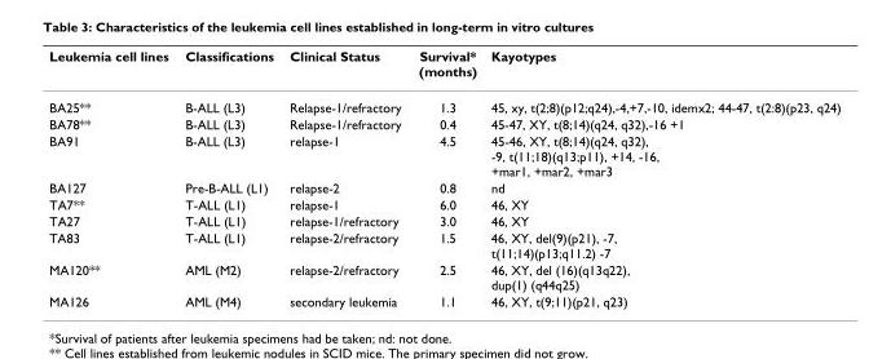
<table><thead><tr><td>Leukemia cell lines</td><td>Classifications</td><td>Clinical Status</td><td>Survival* (months)</td><td>Kayotypes</td></tr></thead><tbody><tr><td>BA25**</td><td>B-ALL (L3)</td><td>Relapse-1/refractory</td><td>1.3</td><td>45, xy, t(2;8)(p12;q24),-4,+7,-10, idemx2; 44-47, t(2:8)(p23, q24)</td></tr><tr><td>BA78**</td><td>B-ALL (L3)</td><td>Relapse-1/refractory</td><td>0.4</td><td>45-47, XY, t(8;14)(q24, q32),-16 +1</td></tr><tr><td>BA91</td><td>B-ALL (L3)</td><td>relapse-1</td><td>4.5</td><td>45-46, XY, t(8;14)(q24, q32), -9, t(11;18)(q13;p11), +14, -16, +mar1, +mar2, +mar3</td></tr><tr><td>BA127</td><td>Pre-B-ALL (L1)</td><td>relapse-2</td><td>0.8</td><td>nd</td></tr><tr><td>TA7**</td><td>T-ALL (L1)</td><td>relapse-1</td><td>6.0</td><td>46, XY</td></tr><tr><td>TA27</td><td>T-ALL (L1)</td><td>relapse-1/refractory</td><td>3.0</td><td>46, XY</td></tr><tr><td>TA83</td><td>T-ALL (L1)</td><td>relapse-2/refractory</td><td>1.5</td><td>46, XY, del(9)(p21), -7, t(11;14)(p13;q11.2) -7</td></tr><tr><td>MA120**</td><td>AML (M2)</td><td>relapse-2/refractory</td><td>2.5</td><td>46, XY, del (16)(q13q22), dup(1) (q44q25)</td></tr><tr><td>MA126</td><td>AML (M4)</td><td>secondary leukemia</td><td>1.1</td><td>46, XY, t(9;11)(p21, q23)</td></tr></tbody></table>